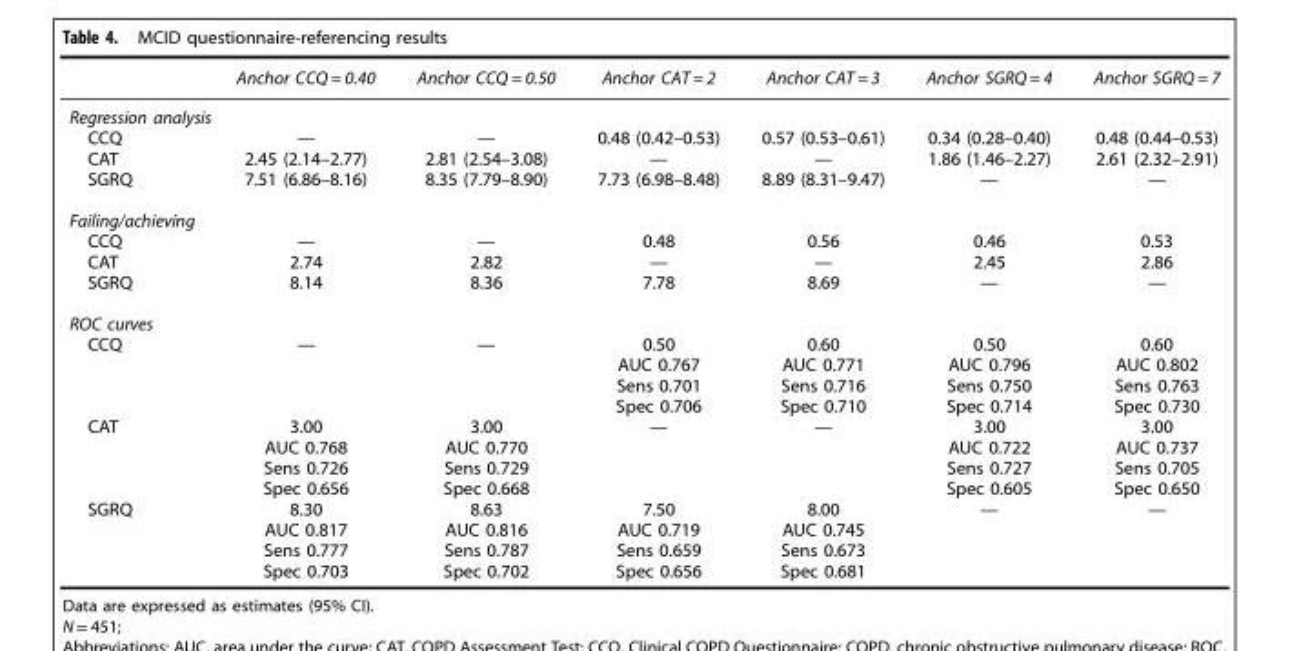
<table><thead><tr><td></td><td>Anchor CCQ = 0.40</td><td>Anchor CCQ = 0.50</td><td>Anchor CAT = 2</td><td>Anchor CAT = 3</td><td>Anchor SGRQ = 4</td><td>Anchor SGRQ = 7</td></tr></thead><tbody><tr><td colspan="7">Regression analysis</td></tr><tr><td>CCQ</td><td>—</td><td>—</td><td>0.48 (0.42–0.53)</td><td>0.57 (0.53–0.61)</td><td>0.34 (0.28–0.40)</td><td>0.48 (0.44–0.53)</td></tr><tr><td>CAT</td><td>2.45 (2.14–2.77)</td><td>2.81 (2.54–3.08)</td><td>—</td><td>—</td><td>1.86 (1.46–2.27)</td><td>2.61 (2.32–2.91)</td></tr><tr><td>SGRQ</td><td>7.51 (6.86–8.16)</td><td>8.35 (7.79–8.90)</td><td>7.73 (6.98–8.48)</td><td>8.89 (8.31–9.47)</td><td>—</td><td>—</td></tr><tr><td colspan="7">Failing/achieving</td></tr><tr><td>CCQ</td><td>—</td><td>—</td><td>0.48</td><td>0.56</td><td>0.46</td><td>0.53</td></tr><tr><td>CAT</td><td>2.74</td><td>2.82</td><td>—</td><td>—</td><td>2.45</td><td>2.86</td></tr><tr><td>SGRQ</td><td>8.14</td><td>8.36</td><td>7.78</td><td>8.69</td><td>—</td><td>—</td></tr><tr><td colspan="7">ROC curves</td></tr><tr><td rowspan="4">CCQ</td><td>—</td><td>—</td><td>0.50</td><td>0.60</td><td>0.50</td><td>0.60</td></tr><tr><td></td><td></td><td>AUC 0.767</td><td>AUC 0.771</td><td>AUC 0.796</td><td>AUC 0.802</td></tr><tr><td></td><td></td><td>Sens 0.701</td><td>Sens 0.716</td><td>Sens 0.750</td><td>Sens 0.763</td></tr><tr><td></td><td></td><td>Spec 0.706</td><td>Spec 0.710</td><td>Spec 0.714</td><td>Spec 0.730</td></tr><tr><td rowspan="4">CAT</td><td>3.00</td><td>3.00</td><td>—</td><td>—</td><td>3.00</td><td>3.00</td></tr><tr><td>AUC 0.768</td><td>AUC 0.770</td><td></td><td></td><td>AUC 0.722</td><td>AUC 0.737</td></tr><tr><td>Sens 0.726</td><td>Sens 0.729</td><td></td><td></td><td>Sens 0.727</td><td>Sens 0.705</td></tr><tr><td>Spec 0.656</td><td>Spec 0.668</td><td></td><td></td><td>Spec 0.605</td><td>Spec 0.650</td></tr><tr><td rowspan="4">SGRQ</td><td>8.30</td><td>8.63</td><td>7.50</td><td>8.00</td><td>—</td><td>—</td></tr><tr><td>AUC 0.817</td><td>AUC 0.816</td><td>AUC 0.719</td><td>AUC 0.745</td><td></td><td></td></tr><tr><td>Sens 0.777</td><td>Sens 0.787</td><td>Sens 0.659</td><td>Sens 0.673</td><td></td><td></td></tr><tr><td>Spec 0.703</td><td>Spec 0.702</td><td>Spec 0.656</td><td>Spec 0.681</td><td></td><td></td></tr></tbody></table>